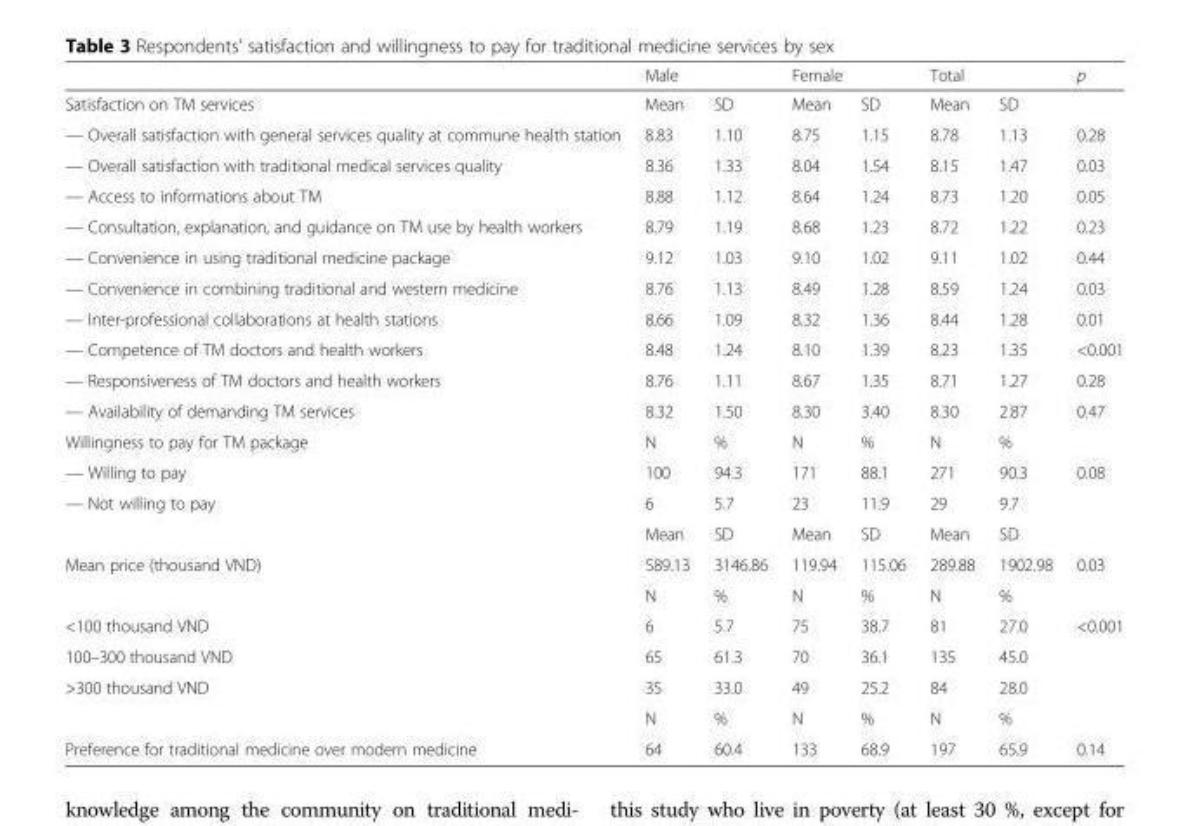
<table><thead><tr><td rowspan="2">Satisfaction on TM services</td><td colspan="2">Male</td><td colspan="2">Female</td><td colspan="2">Total</td><td rowspan="2">p</td></tr><tr><td>Mean</td><td>SD</td><td>Mean</td><td>SD</td><td>Mean</td><td>SD</td></tr></thead><tbody><tr><td>— Overall satisfaction with general services quality at commune health station</td><td>8.83</td><td>1.10</td><td>8.75</td><td>1.15</td><td>8.78</td><td>1.13</td><td>0.28</td></tr><tr><td>— Overall satisfaction with traditional medical services quality</td><td>8.36</td><td>1.33</td><td>8.04</td><td>1.54</td><td>8.15</td><td>1.47</td><td>0.03</td></tr><tr><td>— Access to informations about TM</td><td>8.88</td><td>1.12</td><td>8.64</td><td>1.24</td><td>8.73</td><td>1.20</td><td>0.05</td></tr><tr><td>— Consultation, explanation, and guidance on TM use by health workers</td><td>8.79</td><td>1.19</td><td>8.68</td><td>1.23</td><td>8.72</td><td>1.22</td><td>0.23</td></tr><tr><td>— Convenience in using traditional medicine package</td><td>9.12</td><td>1.03</td><td>9.10</td><td>1.02</td><td>9.11</td><td>1.02</td><td>0.44</td></tr><tr><td>— Convenience in combining traditional and western medicine</td><td>8.76</td><td>1.13</td><td>8.49</td><td>1.28</td><td>8.59</td><td>1.24</td><td>0.03</td></tr><tr><td>— Inter-professional collaborations at health stations</td><td>8.66</td><td>1.09</td><td>8.32</td><td>1.36</td><td>8.44</td><td>1.28</td><td>0.01</td></tr><tr><td>— Competence of TM doctors and health workers</td><td>8.48</td><td>1.24</td><td>8.10</td><td>1.39</td><td>8.23</td><td>1.35</td><td>&lt;0.001</td></tr><tr><td>— Responsiveness of TM doctors and health workers</td><td>8.76</td><td>1.11</td><td>8.67</td><td>1.35</td><td>8.71</td><td>1.27</td><td>0.28</td></tr><tr><td>— Availability of demanding TM services</td><td>8.32</td><td>1.50</td><td>8.30</td><td>3.40</td><td>8.30</td><td>2.87</td><td>0.47</td></tr><tr><td>Willingness to pay for TM package</td><td>N</td><td>%</td><td>N</td><td>%</td><td>N</td><td>%</td><td></td></tr><tr><td>— Willing to pay</td><td>100</td><td>94.3</td><td>171</td><td>88.1</td><td>271</td><td>90.3</td><td rowspan="2">0.08</td></tr><tr><td rowspan="2">— Not willing to pay</td><td>6</td><td>5.7</td><td>23</td><td>11.9</td><td>29</td><td>9.7</td></tr><tr><td>Mean</td><td>SD</td><td>Mean</td><td>SD</td><td>Mean</td><td>SD</td><td></td></tr><tr><td rowspan="2">Mean price (thousand VND)</td><td>589.13</td><td>3146.86</td><td>119.94</td><td>115.06</td><td>289.88</td><td>1902.98</td><td>0.03</td></tr><tr><td>N</td><td>%</td><td>N</td><td>%</td><td>N</td><td>%</td><td></td></tr><tr><td>&lt;100 thousand VND</td><td>6</td><td>5.7</td><td>75</td><td>38.7</td><td>81</td><td>27.0</td><td rowspan="3">&lt;0.001</td></tr><tr><td>100–300 thousand VND</td><td>65</td><td>61.3</td><td>70</td><td>36.1</td><td>135</td><td>45.0</td></tr><tr><td rowspan="2">&gt;300 thousand VND</td><td>35</td><td>33.0</td><td>49</td><td>25.2</td><td>84</td><td>28.0</td></tr><tr><td>N</td><td>%</td><td>N</td><td>%</td><td>N</td><td>%</td><td></td></tr><tr><td>Preference for traditional medicine over modern medicine</td><td>64</td><td>60.4</td><td>133</td><td>68.9</td><td>197</td><td>65.9</td><td>0.14</td></tr></tbody></table>